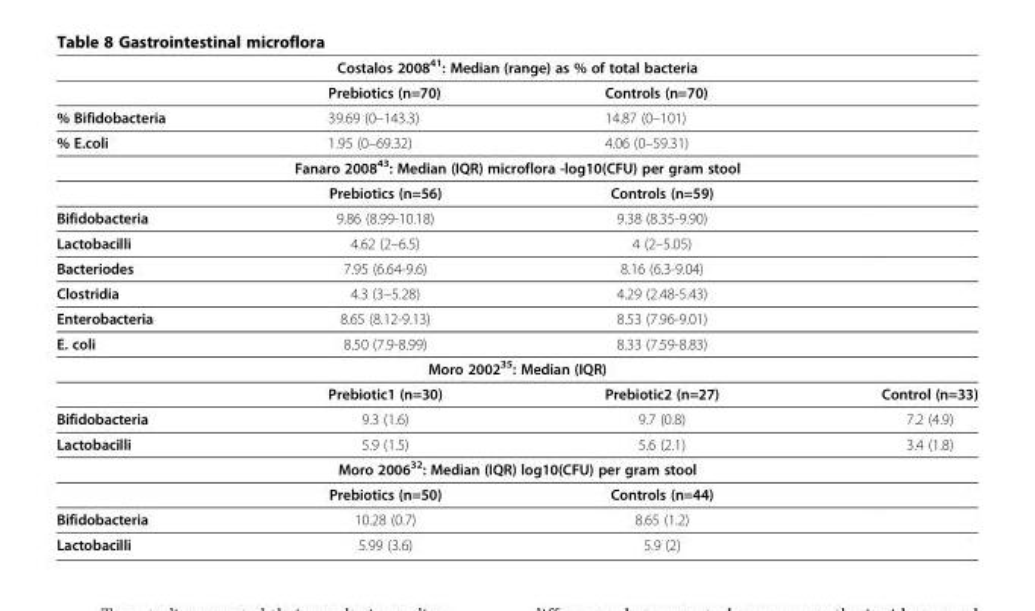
<table><thead><tr><td colspan="4">Costalos 2008<sup>41</sup>: Median (range) as % of total bacteria</td></tr><tr><td></td><td>Prebiotics (n=70)</td><td>Controls (n=70)</td><td></td></tr></thead><tbody><tr><td>% Bifidobacteria</td><td>39.69 (0–143.3)</td><td>14.87 (0–101)</td><td></td></tr><tr><td>% E.coli</td><td>1.95 (0–69.32)</td><td>4.06 (0–59.31)</td><td></td></tr><tr><td colspan="4">Fanaro 2008<sup>43</sup>: Median (IQR) microflora -log10(CFU) per gram stool</td></tr><tr><td></td><td>Prebiotics (n=56)</td><td>Controls (n=59)</td><td></td></tr><tr><td>Bifidobacteria</td><td>9.86 (8.99-10.18)</td><td>9.38 (8.35-9.90)</td><td></td></tr><tr><td>Lactobacilli</td><td>4.62 (2–6.5)</td><td>4 (2–5.05)</td><td></td></tr><tr><td>Bacteriodes</td><td>7.95 (6.64-9.6)</td><td>8.16 (6.3-9.04)</td><td></td></tr><tr><td>Clostridia</td><td>4.3 (3–5.28)</td><td>4.29 (2.48-5.43)</td><td></td></tr><tr><td>Enterobacteria</td><td>8.65 (8.12-9.13)</td><td>8.53 (7.96-9.01)</td><td></td></tr><tr><td>E. coli</td><td>8.50 (7.9-8.99)</td><td>8.33 (7.59-8.83)</td><td></td></tr><tr><td colspan="4">Moro 2002<sup>35</sup>: Median (IQR)</td></tr><tr><td></td><td>Prebiotic1 (n=30)</td><td>Prebiotic2 (n=27)</td><td>Control (n=33)</td></tr><tr><td>Bifidobacteria</td><td>9.3 (1.6)</td><td>9.7 (0.8)</td><td>7.2 (4.9)</td></tr><tr><td>Lactobacilli</td><td>5.9 (1.5)</td><td>5.6 (2.1)</td><td>3.4 (1.8)</td></tr><tr><td colspan="4">Moro 2006<sup>32</sup>: Median (IQR) log10(CFU) per gram stool</td></tr><tr><td></td><td>Prebiotics (n=50)</td><td>Controls (n=44)</td><td></td></tr><tr><td>Bifidobacteria</td><td>10.28 (0.7)</td><td>8.65 (1.2)</td><td></td></tr><tr><td>Lactobacilli</td><td>5.99 (3.6)</td><td>5.9 (2)</td><td></td></tr></tbody></table>